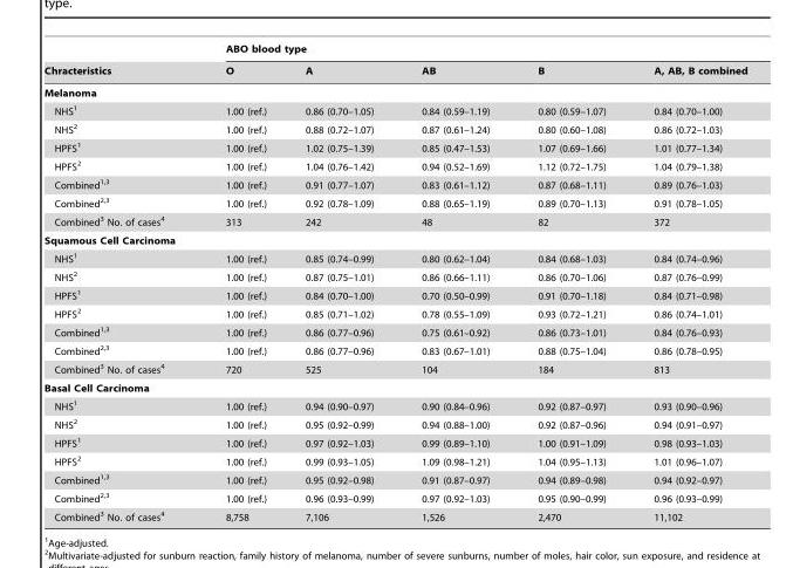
<table><thead><tr><td rowspan="2">Chracteristics</td><td colspan="5">ABO blood type</td></tr><tr><td>O</td><td>A</td><td>AB</td><td>B</td><td>A, AB, B combined</td></tr></thead><tbody><tr><td colspan="6">Melanoma</td></tr><tr><td>NHS<sup>1</sup></td><td>1.00 (ref.)</td><td>0.86 (0.70–1.05)</td><td>0.84 (0.59–1.19)</td><td>0.80 (0.59–1.07)</td><td>0.84 (0.70–1.00)</td></tr><tr><td>NHS<sup>2</sup></td><td>1.00 (ref.)</td><td>0.88 (0.72–1.07)</td><td>0.87 (0.61–1.24)</td><td>0.80 (0.60–1.08)</td><td>0.86 (0.72–1.03)</td></tr><tr><td>HPFS<sup>1</sup></td><td>1.00 (ref.)</td><td>1.02 (0.75–1.39)</td><td>0.85 (0.47–1.53)</td><td>1.07 (0.69–1.66)</td><td>1.01 (0.77–1.34)</td></tr><tr><td>HPFS<sup>2</sup></td><td>1.00 (ref.)</td><td>1.04 (0.76–1.42)</td><td>0.94 (0.52–1.69)</td><td>1.12 (0.72–1.75)</td><td>1.04 (0.79–1.38)</td></tr><tr><td>Combined<sup>1,</sup>3</td><td>1.00 (ref.)</td><td>0.91 (0.77–1.07)</td><td>0.83 (0.61–1.12)</td><td>0.87 (0.68–1.11)</td><td>0.89 (0.76–1.03)</td></tr><tr><td>Combined<sup>2,</sup>3</td><td>1.00 (ref.)</td><td>0.92 (0.78–1.09)</td><td>0.88 (0.65–1.19)</td><td>0.89 (0.70–1.13)</td><td>0.91 (0.78–1.05)</td></tr><tr><td>Combined<sup>3</sup> No. of cases<sup>4</sup></td><td>313</td><td>242</td><td>48</td><td>82</td><td>372</td></tr><tr><td colspan="6">Squamous Cell Carcinoma</td></tr><tr><td>NHS<sup>1</sup></td><td>1.00 (ref.)</td><td>0.85 (0.74–0.99)</td><td>0.80 (0.62–1.04)</td><td>0.84 (0.68–1.03)</td><td>0.84 (0.74–0.96)</td></tr><tr><td>NHS<sup>2</sup></td><td>1.00 (ref.)</td><td>0.87 (0.75–1.01)</td><td>0.86 (0.66–1.11)</td><td>0.86 (0.70–1.06)</td><td>0.87 (0.76–0.99)</td></tr><tr><td>HPFS<sup>1</sup></td><td>1.00 (ref.)</td><td>0.84 (0.70–1.00)</td><td>0.70 (0.50–0.99)</td><td>0.91 (0.70–1.18)</td><td>0.84 (0.71–0.98)</td></tr><tr><td>HPFS<sup>2</sup></td><td>1.00 (ref.)</td><td>0.85 (0.71–1.02)</td><td>0.78 (0.55–1.09)</td><td>0.93 (0.72–1.21)</td><td>0.86 (0.74–1.01)</td></tr><tr><td>Combined<sup>1,</sup>3</td><td>1.00 (ref.)</td><td>0.86 (0.77–0.96)</td><td>0.75 (0.61–0.92)</td><td>0.86 (0.73–1.01)</td><td>0.84 (0.76–0.93)</td></tr><tr><td>Combined<sup>2,</sup>3</td><td>1.00 (ref.)</td><td>0.86 (0.77–0.96)</td><td>0.83 (0.67–1.01)</td><td>0.88 (0.75–1.04)</td><td>0.86 (0.78–0.95)</td></tr><tr><td>Combined<sup>3</sup> No. of cases<sup>4</sup></td><td>720</td><td>525</td><td>104</td><td>184</td><td>813</td></tr><tr><td colspan="6">Basal Cell Carcinoma</td></tr><tr><td>NHS<sup>1</sup></td><td>1.00 (ref.)</td><td>0.94 (0.90–0.97)</td><td>0.90 (0.84–0.96)</td><td>0.92 (0.87–0.97)</td><td>0.93 (0.90–0.96)</td></tr><tr><td>NHS<sup>2</sup></td><td>1.00 (ref.)</td><td>0.95 (0.92–0.99)</td><td>0.94 (0.88–1.00)</td><td>0.92 (0.87–0.96)</td><td>0.94 (0.91–0.97)</td></tr><tr><td>HPFS<sup>1</sup></td><td>1.00 (ref.)</td><td>0.97 (0.92–1.03)</td><td>0.99 (0.89–1.10)</td><td>1.00 (0.91–1.09)</td><td>0.98 (0.93–1.03)</td></tr><tr><td>HPFS<sup>2</sup></td><td>1.00 (ref.)</td><td>0.99 (0.93–1.05)</td><td>1.09 (0.98–1.21)</td><td>1.04 (0.95–1.13)</td><td>1.01 (0.96–1.07)</td></tr><tr><td>Combined<sup>1,</sup>3</td><td>1.00 (ref.)</td><td>0.95 (0.92–0.98)</td><td>0.91 (0.87–0.97)</td><td>0.94 (0.89–0.98)</td><td>0.94 (0.92–0.97)</td></tr><tr><td>Combined<sup>2,</sup>3</td><td>1.00 (ref.)</td><td>0.96 (0.93–0.99)</td><td>0.97 (0.92–1.03)</td><td>0.95 (0.90–0.99)</td><td>0.96 (0.93–0.99)</td></tr><tr><td>Combined<sup>3</sup> No. of cases<sup>4</sup></td><td>8,758</td><td>7,106</td><td>1,526</td><td>2,470</td><td>11,102</td></tr></tbody></table>